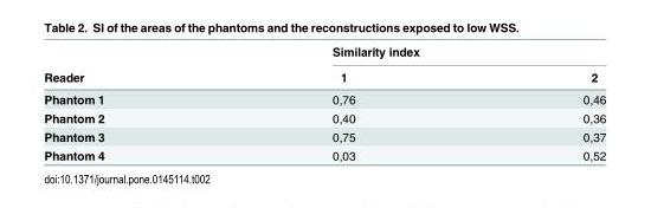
<table><thead><tr><td rowspan="2">Reader</td><td colspan="2">Similarity index</td></tr><tr><td>1</td><td>2</td></tr></thead><tbody><tr><td>Phantom 1</td><td>0,76</td><td>0,46</td></tr><tr><td>Phantom 2</td><td>0,40</td><td>0,36</td></tr><tr><td>Phantom 3</td><td>0,75</td><td>0,37</td></tr><tr><td>Phantom 4</td><td>0,03</td><td>0,52</td></tr></tbody></table>